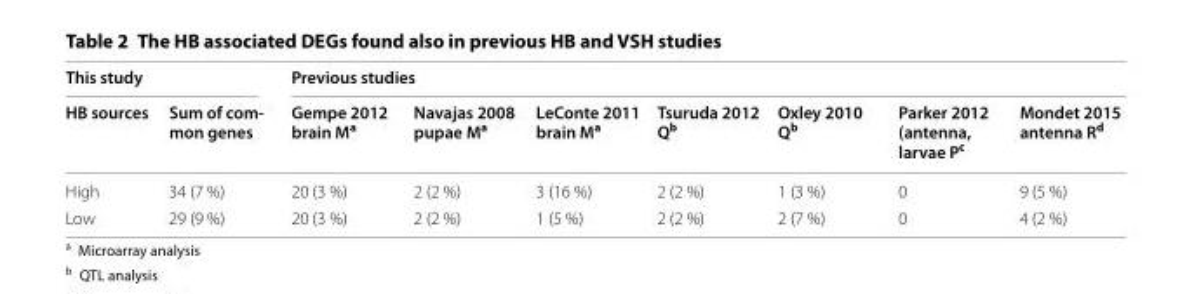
<table><thead><tr><td colspan="2">This study</td><td colspan="7">Previous studies</td></tr><tr><td>HB sources</td><td>Sum of com- mon genes</td><td>Gempe 2012 brain M<sup>a</sup></td><td>Navajas 2008 pupae M<sup>a</sup></td><td>LeConte 2011 brain M<sup>a</sup></td><td>Tsuruda 2012 Q<sup>b</sup></td><td>Oxley 2010 Q<sup>b</sup></td><td>Parker 2012 (antenna, larvae P<sup>c</sup></td><td>Mondet 2015 antenna R<sup>d</sup></td></tr></thead><tbody><tr><td>High</td><td>34 (7 %)</td><td>20 (3 %)</td><td>2 (2 %)</td><td>3 (16 %)</td><td>2 (2 %)</td><td>1 (3 %)</td><td>0</td><td>9 (5 %)</td></tr><tr><td>Low</td><td>29 (9 %)</td><td>20 (3 %)</td><td>2 (2 %)</td><td>1 (5 %)</td><td>2 (2 %)</td><td>2 (7 %)</td><td>0</td><td>4 (2 %)</td></tr></tbody></table>